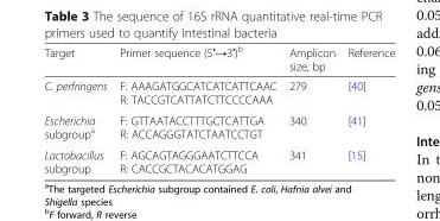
<table><thead><tr><td>Target</td><td>Primer sequence (5′→3′)<sup>b</sup></td><td>Amplicon size, bp</td><td>Reference</td></tr></thead><tbody><tr><td>C. perfringens</td><td>F: AAAGATGGCATCATCATTCAAC R: TACCGTCATTATCTTCCCCAAA</td><td>279</td><td>[40]</td></tr><tr><td>Escherichia subgroup<sup>a</sup></td><td>F: GTTAATACCTTTGCTCATTGA R: ACCAGGGTATCTAATCCTGT</td><td>340</td><td>[41]</td></tr><tr><td>Lactobacillus subgroup</td><td>F: AGCAGTAGGGAATCTTCCA R: CACCGCTACACATGGAG</td><td>341</td><td>[15]</td></tr></tbody></table>